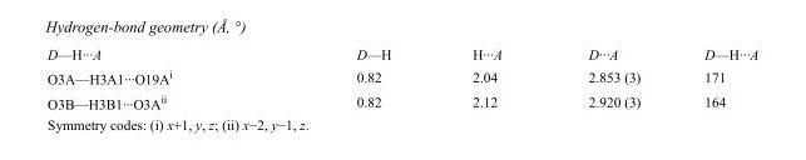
<table><tbody><tr><td>D—H···A</td><td>D—H</td><td>H···A</td><td>D···A</td><td>D—H···A</td></tr><tr><td>O3A—H3A1···O19A<sup>i</sup></td><td>0.82</td><td>2.04</td><td>2.853 (3)</td><td>171</td></tr><tr><td>O3B—H3B1···O3A<sup>ii</sup></td><td>0.82</td><td>2.12</td><td>2.920 (3)</td><td>164</td></tr></tbody></table>